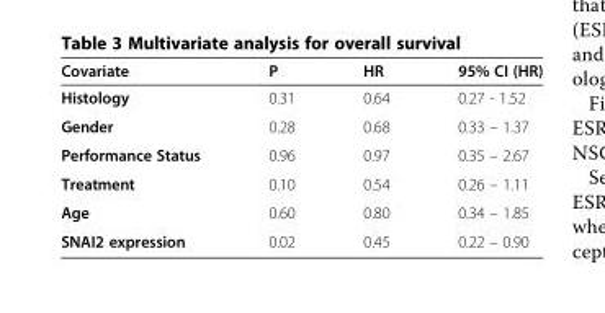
<table><thead><tr><td>Covariate</td><td>P</td><td>HR</td><td>95% CI (HR)</td></tr></thead><tbody><tr><td>Histology</td><td>0.31</td><td>0.64</td><td>0.27 - 1.52</td></tr><tr><td>Gender</td><td>0.28</td><td>0.68</td><td>0.33 – 1.37</td></tr><tr><td>Performance Status</td><td>0.96</td><td>0.97</td><td>0.35 – 2.67</td></tr><tr><td>Treatment</td><td>0.10</td><td>0.54</td><td>0.26 – 1.11</td></tr><tr><td>Age</td><td>0.60</td><td>0.80</td><td>0.34 – 1.85</td></tr><tr><td>SNAI2 expression</td><td>0.02</td><td>0.45</td><td>0.22 – 0.90</td></tr></tbody></table>